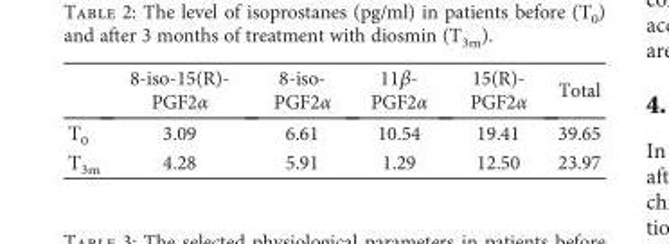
<table><thead><tr><td></td><td>8-iso-15(R)- PGF2α</td><td>8-iso- PGF2α</td><td>11β- PGF2α</td><td>15(R)- PGF2α</td><td>Total</td></tr></thead><tbody><tr><td>T<sub>0</sub></td><td>3.09</td><td>6.61</td><td>10.54</td><td>19.41</td><td>39.65</td></tr><tr><td>T<sub>3m</sub></td><td>4.28</td><td>5.91</td><td>1.29</td><td>12.50</td><td>23.97</td></tr></tbody></table>